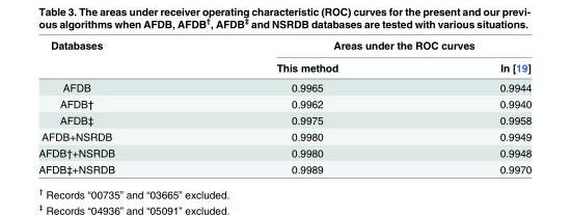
<table><thead><tr><td rowspan="2">Databases</td><td colspan="2">Areas under the ROC curves</td></tr><tr><td>This method</td><td>In [19]</td></tr></thead><tbody><tr><td>AFDB</td><td>0.9965</td><td>0.9944</td></tr><tr><td>AFDB†</td><td>0.9962</td><td>0.9940</td></tr><tr><td>AFDB‡</td><td>0.9975</td><td>0.9958</td></tr><tr><td>AFDB+NSRDB</td><td>0.9980</td><td>0.9949</td></tr><tr><td>AFDB†+NSRDB</td><td>0.9980</td><td>0.9948</td></tr><tr><td>AFDB‡+NSRDB</td><td>0.9989</td><td>0.9970</td></tr></tbody></table>